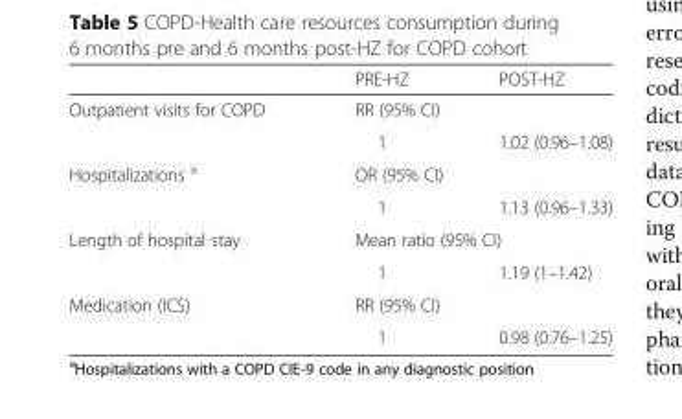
<table><thead><tr><td></td><td>PRE-HZ</td><td>POST-HZ</td></tr></thead><tbody><tr><td rowspan="2">Outpatient visits for COPD</td><td colspan="2">RR (95% CI)</td></tr><tr><td>1</td><td>1.02 (0.96–1.08)</td></tr><tr><td rowspan="2">Hospitalizations <sup>a</sup></td><td colspan="2">OR (95% CI)</td></tr><tr><td>1</td><td>1.13 (0.96–1.33)</td></tr><tr><td rowspan="2">Length of hospital stay</td><td colspan="2">Mean ratio (95% CI)</td></tr><tr><td>1</td><td>1.19 (1–1.42)</td></tr><tr><td rowspan="2">Medication (ICS)</td><td colspan="2">RR (95% CI)</td></tr><tr><td>1</td><td>0.98 (0.76–1.25)</td></tr></tbody></table>